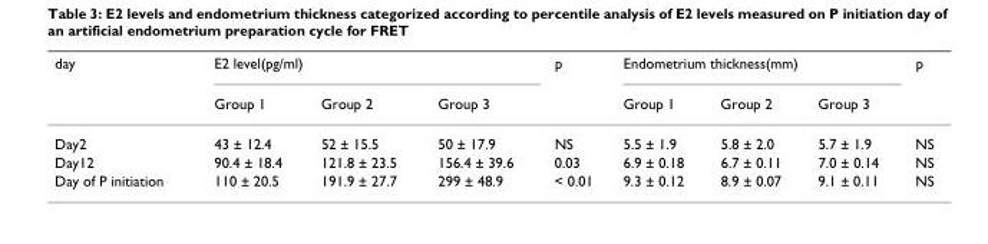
<table><thead><tr><td rowspan="2">day</td><td colspan="3">E2 level(pg/ml)</td><td rowspan="2">p</td><td colspan="3">Endometrium thickness(mm)</td><td rowspan="2">p</td></tr><tr><td>Group 1</td><td>Group 2</td><td>Group 3</td><td>Group 1</td><td>Group 2</td><td>Group 3</td></tr></thead><tbody><tr><td>Day2</td><td>43 ± 12.4</td><td>52 ± 15.5</td><td>50 ± 17.9</td><td>NS</td><td>5.5 ± 1.9</td><td>5.8 ± 2.0</td><td>5.7 ± 1.9</td><td>NS</td></tr><tr><td>Day12</td><td>90.4 ± 18.4</td><td>121.8 ± 23.5</td><td>156.4 ± 39.6</td><td>0.03</td><td>6.9 ± 0.18</td><td>6.7 ± 0.11</td><td>7.0 ± 0.14</td><td>NS</td></tr><tr><td>Day of P initiation</td><td>110 ± 20.5</td><td>191.9 ± 27.7</td><td>299 ± 48.9</td><td>&lt; 0.01</td><td>9.3 ± 0.12</td><td>8.9 ± 0.07</td><td>9.1 ± 0.11</td><td>NS</td></tr></tbody></table>